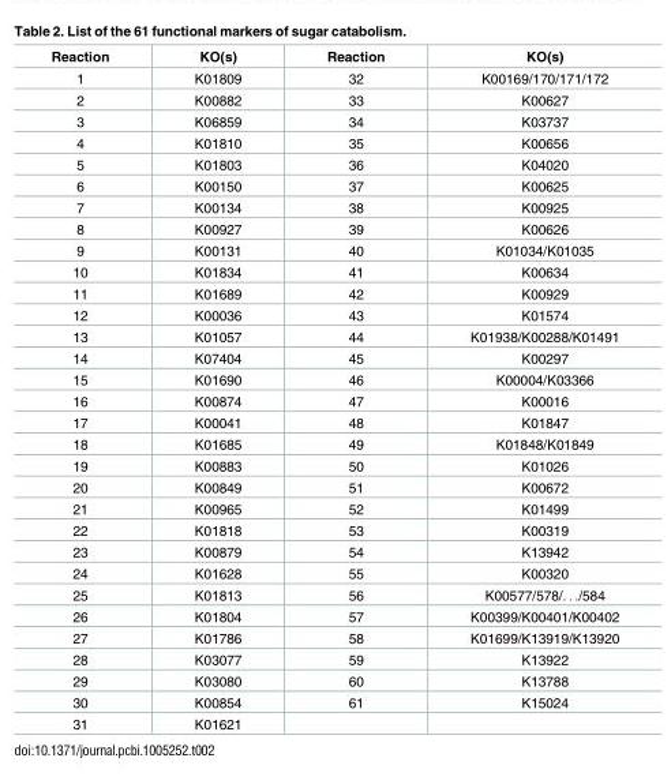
<table><thead><tr><td>Reaction</td><td>KO(s)</td><td>Reaction</td><td>KO(s)</td></tr></thead><tbody><tr><td>1</td><td>K01809</td><td>32</td><td>K00169/170/171/172</td></tr><tr><td>2</td><td>K00882</td><td>33</td><td>K00627</td></tr><tr><td>3</td><td>K06859</td><td>34</td><td>K03737</td></tr><tr><td>4</td><td>K01810</td><td>35</td><td>K00656</td></tr><tr><td>5</td><td>K01803</td><td>36</td><td>K04020</td></tr><tr><td>6</td><td>K00150</td><td>37</td><td>K00625</td></tr><tr><td>7</td><td>K00134</td><td>38</td><td>K00925</td></tr><tr><td>8</td><td>K00927</td><td>39</td><td>K00626</td></tr><tr><td>9</td><td>K00131</td><td>40</td><td>K01034/K01035</td></tr><tr><td>10</td><td>K01834</td><td>41</td><td>K00634</td></tr><tr><td>11</td><td>K01689</td><td>42</td><td>K00929</td></tr><tr><td>12</td><td>K00036</td><td>43</td><td>K01574</td></tr><tr><td>13</td><td>K01057</td><td>44</td><td>K01938/K00288/K01491</td></tr><tr><td>14</td><td>K07404</td><td>45</td><td>K00297</td></tr><tr><td>15</td><td>K01690</td><td>46</td><td>K00004/K03366</td></tr><tr><td>16</td><td>K00874</td><td>47</td><td>K00016</td></tr><tr><td>17</td><td>K00041</td><td>48</td><td>K01847</td></tr><tr><td>18</td><td>K01685</td><td>49</td><td>K01848/K01849</td></tr><tr><td>19</td><td>K00883</td><td>50</td><td>K01026</td></tr><tr><td>20</td><td>K00849</td><td>51</td><td>K00672</td></tr><tr><td>21</td><td>K00965</td><td>52</td><td>K01499</td></tr><tr><td>22</td><td>K01818</td><td>53</td><td>K00319</td></tr><tr><td>23</td><td>K00879</td><td>54</td><td>K13942</td></tr><tr><td>24</td><td>K01628</td><td>55</td><td>K00320</td></tr><tr><td>25</td><td>K01813</td><td>56</td><td>K00577/578/. . ./584</td></tr><tr><td>26</td><td>K01804</td><td>57</td><td>K00399/K00401/K00402</td></tr><tr><td>27</td><td>K01786</td><td>58</td><td>K01699/K13919/K13920</td></tr><tr><td>28</td><td>K03077</td><td>59</td><td>K13922</td></tr><tr><td>29</td><td>K03080</td><td>60</td><td>K13788</td></tr><tr><td>30</td><td>K00854</td><td>61</td><td>K15024</td></tr><tr><td>31</td><td>K01621</td><td></td><td></td></tr></tbody></table>